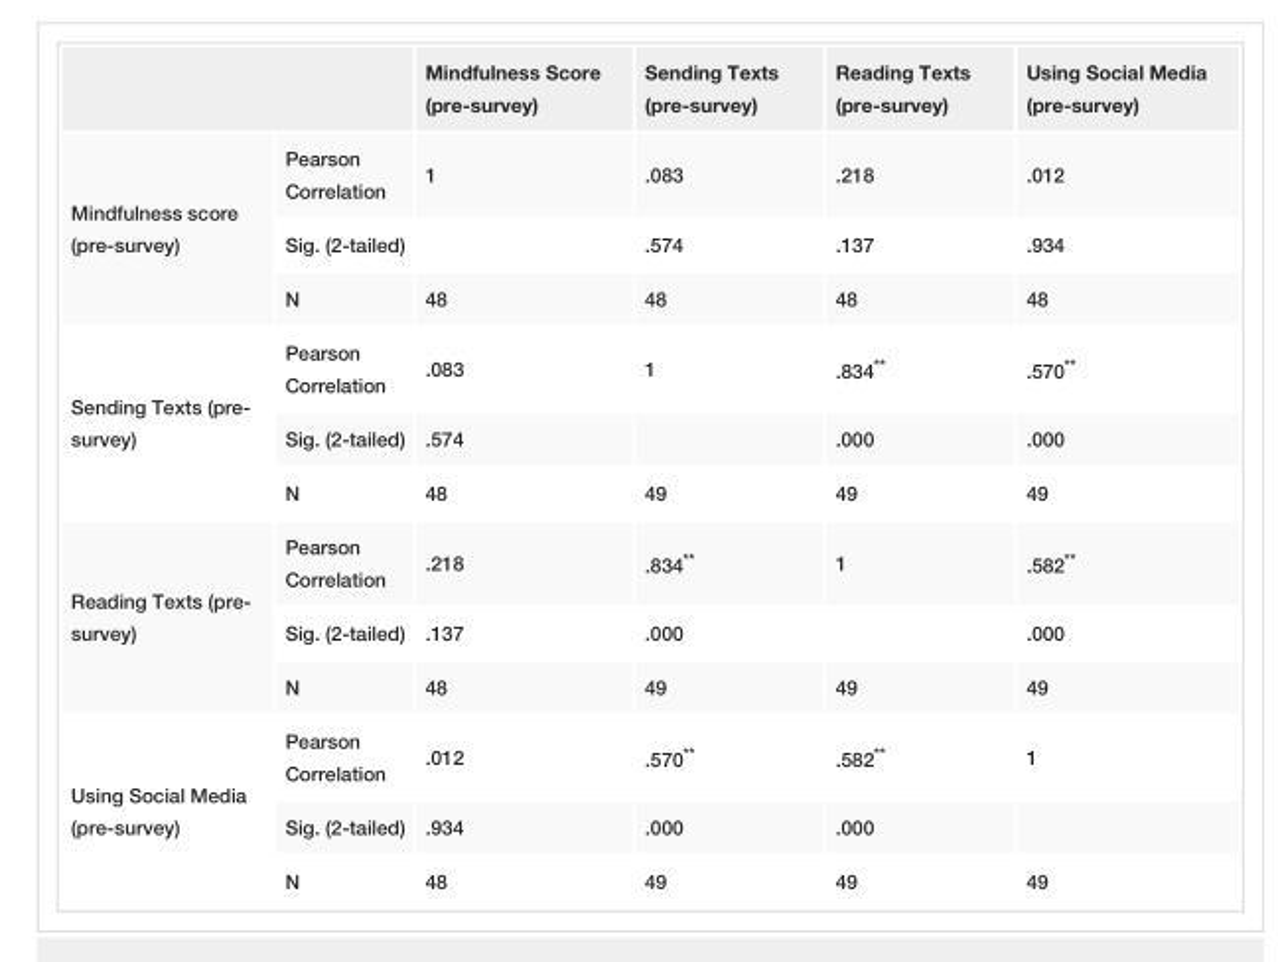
<table><thead><tr><td></td><td></td><td>Mindfulness Score (pre-survey)</td><td>Sending Texts (pre-survey)</td><td>Reading Texts (pre-survey)</td><td>Using Social Media (pre-survey)</td></tr></thead><tbody><tr><td rowspan="3">Mindfulness score (pre-survey)</td><td>Pearson Correlation</td><td>1</td><td>.083</td><td>.218</td><td>.012</td></tr><tr><td>Sig. (2-tailed)</td><td></td><td>.574</td><td>.137</td><td>.934</td></tr><tr><td>N</td><td>48</td><td>48</td><td>48</td><td>48</td></tr><tr><td rowspan="3">Sending Texts (pre- survey)</td><td>Pearson Correlation</td><td>.083</td><td>1</td><td>.834**</td><td>.570**</td></tr><tr><td>Sig. (2-tailed)</td><td>.574</td><td></td><td>.000</td><td>.000</td></tr><tr><td>N</td><td>48</td><td>49</td><td>49</td><td>49</td></tr><tr><td rowspan="3">Reading Texts (pre- survey)</td><td>Pearson Correlation</td><td>.218</td><td>.834**</td><td>1</td><td>.582**</td></tr><tr><td>Sig. (2-tailed)</td><td>.137</td><td>.000</td><td></td><td>.000</td></tr><tr><td>N</td><td>48</td><td>49</td><td>49</td><td>49</td></tr><tr><td rowspan="3">Using Social Media (pre-survey)</td><td>Pearson Correlation</td><td>.012</td><td>.570**</td><td>.582**</td><td>1</td></tr><tr><td>Sig. (2-tailed)</td><td>.934</td><td>.000</td><td>.000</td><td></td></tr><tr><td>N</td><td>48</td><td>49</td><td>49</td><td>49</td></tr></tbody></table>